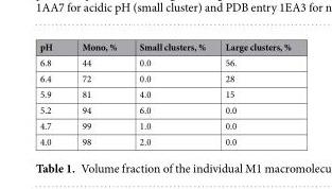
<table><thead><tr><td>pH</td><td>Mono, %</td><td>Small clusters, %</td><td>Large clusters, %</td></tr></thead><tbody><tr><td>6.8</td><td>44</td><td>0.0</td><td>56.</td></tr><tr><td>6.4</td><td>72</td><td>0.0</td><td>28</td></tr><tr><td>5.9</td><td>81</td><td>4.0</td><td>15</td></tr><tr><td>5.2</td><td>94</td><td>6.0</td><td>0.0</td></tr><tr><td>4.7</td><td>99</td><td>1.0</td><td>0.0</td></tr><tr><td>4.0</td><td>98</td><td>2.0</td><td>0.0</td></tr></tbody></table>